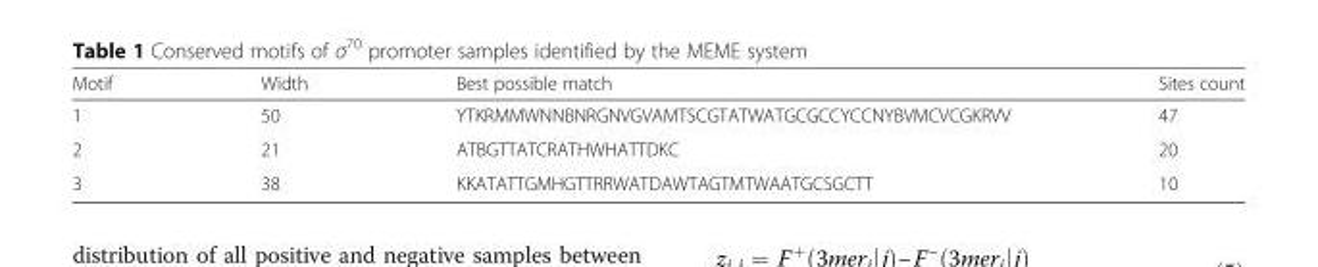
<table><thead><tr><td>Motif</td><td>Width</td><td>Best possible match</td><td>Sites count</td></tr></thead><tbody><tr><td>1</td><td>50</td><td>YTKRMMWNNBNRGNVGVAMTSCGTATWATGCGCCYCCNYBVMCVCGKRVV</td><td>47</td></tr><tr><td>2</td><td>21</td><td>ATBGTTATCRATHWHATTDKC</td><td>20</td></tr><tr><td>3</td><td>38</td><td>KKATATTGMHGTTRRWATDAWTAGTMTWAATGCSGCTT</td><td>10</td></tr></tbody></table>